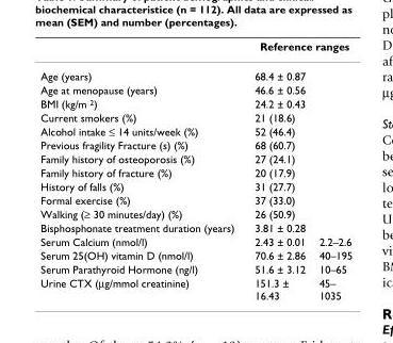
<table><thead><tr><td rowspan="2">Age (years)</td><td colspan="2">Reference ranges</td></tr><tr><td>68.4 ± 0.87</td><td></td></tr></thead><tbody><tr><td>Age at menopause (years)</td><td>46.6 ± 0.56</td><td></td></tr><tr><td>BMI (kg/m 2)</td><td>24.2 ± 0.43</td><td></td></tr><tr><td>Current smokers (%)</td><td>21 (18.6)</td><td></td></tr><tr><td>Alcohol intake ≤ 14 units/week (%)</td><td>52 (46.4)</td><td></td></tr><tr><td>Previous fragility Fracture (s) (%)</td><td>68 (60.7)</td><td></td></tr><tr><td>Family history of osteoporosis (%)</td><td>27 (24.1)</td><td></td></tr><tr><td>Family history of fracture (%)</td><td>20 (17.9)</td><td></td></tr><tr><td>History of falls (%)</td><td>31 (27.7)</td><td></td></tr><tr><td>Formal exercise (%)</td><td>37 (33.0)</td><td></td></tr><tr><td>Walking (≥ 30 minutes/day) (%)</td><td>26 (50.9)</td><td></td></tr><tr><td>Bisphosphonate treatment duration (years)</td><td>3.81 ± 0.28</td><td></td></tr><tr><td>Serum Calcium (nmol/l)</td><td>2.43 ± 0.01</td><td>2.2–2.6</td></tr><tr><td>Serum 25(OH) vitamin D (nmol/l)</td><td>70.6 ± 2.86</td><td>40–195</td></tr><tr><td>Serum Parathyroid Hormone (ng/l)</td><td>51.6 ± 3.12</td><td>10–65</td></tr><tr><td>Urine CTX (μg/mmol creatinine)</td><td>151.3 ± 16.43</td><td>45– 1035</td></tr></tbody></table>